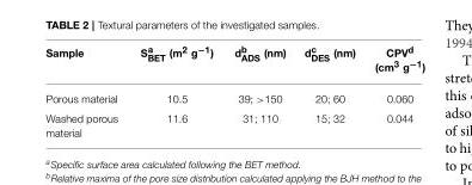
<table><thead><tr><td>Sample</td><td>S<sup>a</sup> <sub>BET</sub> (m<sup>2</sup> g<sup>−1</sup>)</td><td>d<sup>b</sup> <sub>ADS</sub> (nm)</td><td>d<sup>c</sup> <sub>DES</sub> (nm)</td><td>CPV<sup>d</sup> (cm<sup>3</sup> g<sup>−1</sup>)</td></tr></thead><tbody><tr><td>Porous material</td><td>10.5</td><td>39; &gt;150</td><td>20; 60</td><td>0.060</td></tr><tr><td>Washed porous material</td><td>11.6</td><td>31; 110</td><td>15; 32</td><td>0.044</td></tr></tbody></table>